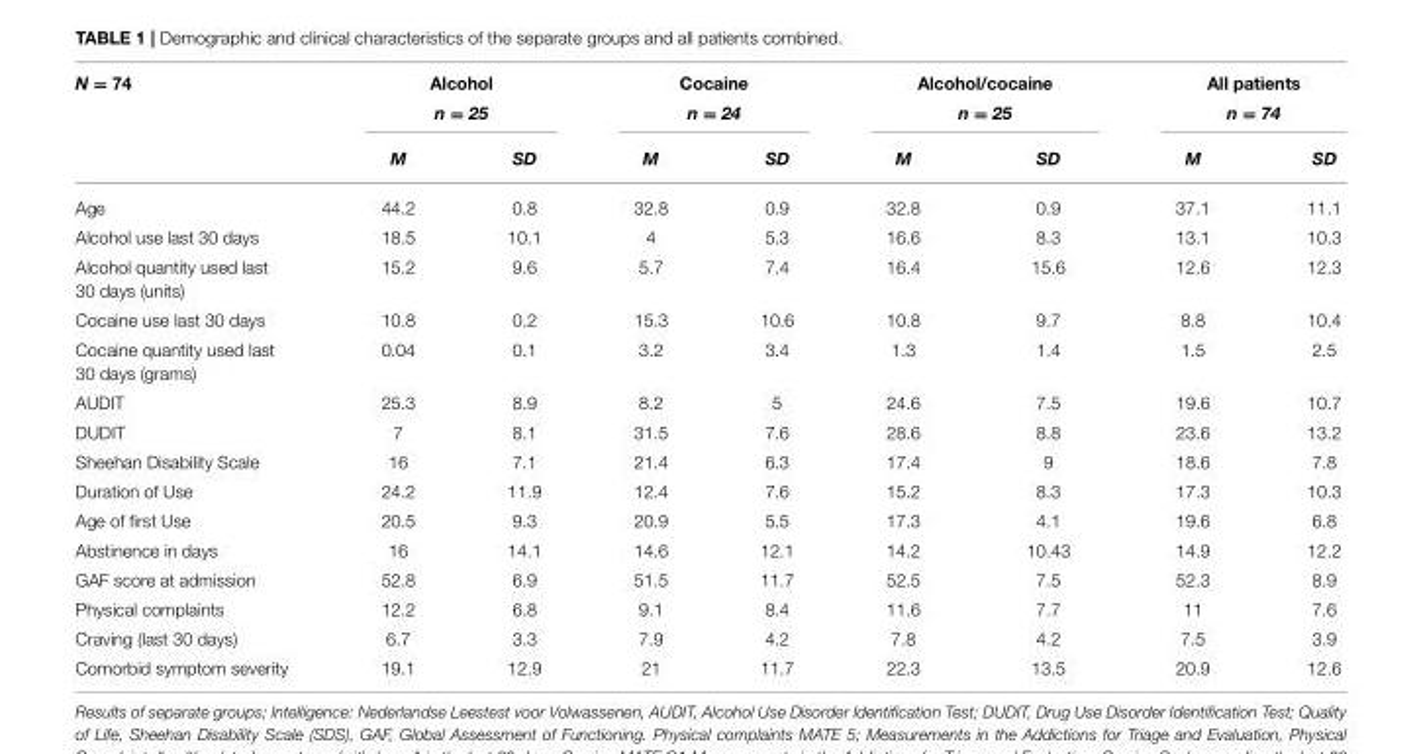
<table><thead><tr><td rowspan="3">N = 74</td><td rowspan="2" colspan="2">Alcohol n = 25</td><td rowspan="2" colspan="2">Cocaine n = 24</td><td rowspan="2" colspan="2">Alcohol/cocaine n = 25</td><td rowspan="2" colspan="2">All patients n = 74</td></tr><tr></tr><tr><td>M</td><td>SD</td><td>M</td><td>SD</td><td>M</td><td>SD</td><td>M</td><td>SD</td></tr></thead><tbody><tr><td>Age</td><td>44.2</td><td>0.8</td><td>32.8</td><td>0.9</td><td>32.8</td><td>0.9</td><td>37.1</td><td>11.1</td></tr><tr><td>Alcohol use last 30 days</td><td>18.5</td><td>10.1</td><td>4</td><td>5.3</td><td>16.6</td><td>8.3</td><td>13.1</td><td>10.3</td></tr><tr><td>Alcohol quantity used last 30 days (units)</td><td>15.2</td><td>9.6</td><td>5.7</td><td>7.4</td><td>16.4</td><td>15.6</td><td>12.6</td><td>12.3</td></tr><tr><td>Cocaine use last 30 days</td><td>10.8</td><td>0.2</td><td>15.3</td><td>10.6</td><td>10.8</td><td>9.7</td><td>8.8</td><td>10.4</td></tr><tr><td>Cocaine quantity used last 30 days (grams)</td><td>0.04</td><td>0.1</td><td>3.2</td><td>3.4</td><td>1.3</td><td>1.4</td><td>1.5</td><td>2.5</td></tr><tr><td>AUDIT</td><td>25.3</td><td>8.9</td><td>8.2</td><td>5</td><td>24.6</td><td>7.5</td><td>19.6</td><td>10.7</td></tr><tr><td>DUDIT</td><td>7</td><td>8.1</td><td>31.5</td><td>7.6</td><td>28.6</td><td>8.8</td><td>23.6</td><td>13.2</td></tr><tr><td>Sheehan Disability Scale</td><td>16</td><td>7.1</td><td>21.4</td><td>6.3</td><td>17.4</td><td>9</td><td>18.6</td><td>7.8</td></tr><tr><td>Duration of Use</td><td>24.2</td><td>11.9</td><td>12.4</td><td>7.6</td><td>15.2</td><td>8.3</td><td>17.3</td><td>10.3</td></tr><tr><td>Age of first Use</td><td>20.5</td><td>9.3</td><td>20.9</td><td>5.5</td><td>17.3</td><td>4.1</td><td>19.6</td><td>6.8</td></tr><tr><td>Abstinence in days</td><td>16</td><td>14.1</td><td>14.6</td><td>12.1</td><td>14.2</td><td>10.43</td><td>14.9</td><td>12.2</td></tr><tr><td>GAF score at admission</td><td>52.8</td><td>6.9</td><td>51.5</td><td>11.7</td><td>52.5</td><td>7.5</td><td>52.3</td><td>8.9</td></tr><tr><td>Physical complaints</td><td>12.2</td><td>6.8</td><td>9.1</td><td>8.4</td><td>11.6</td><td>7.7</td><td>11</td><td>7.6</td></tr><tr><td>Craving (last 30 days)</td><td>6.7</td><td>3.3</td><td>7.9</td><td>4.2</td><td>7.8</td><td>4.2</td><td>7.5</td><td>3.9</td></tr><tr><td>Comorbid symptom severity</td><td>19.1</td><td>12.9</td><td>21</td><td>11.7</td><td>22.3</td><td>13.5</td><td>20.9</td><td>12.6</td></tr></tbody></table>